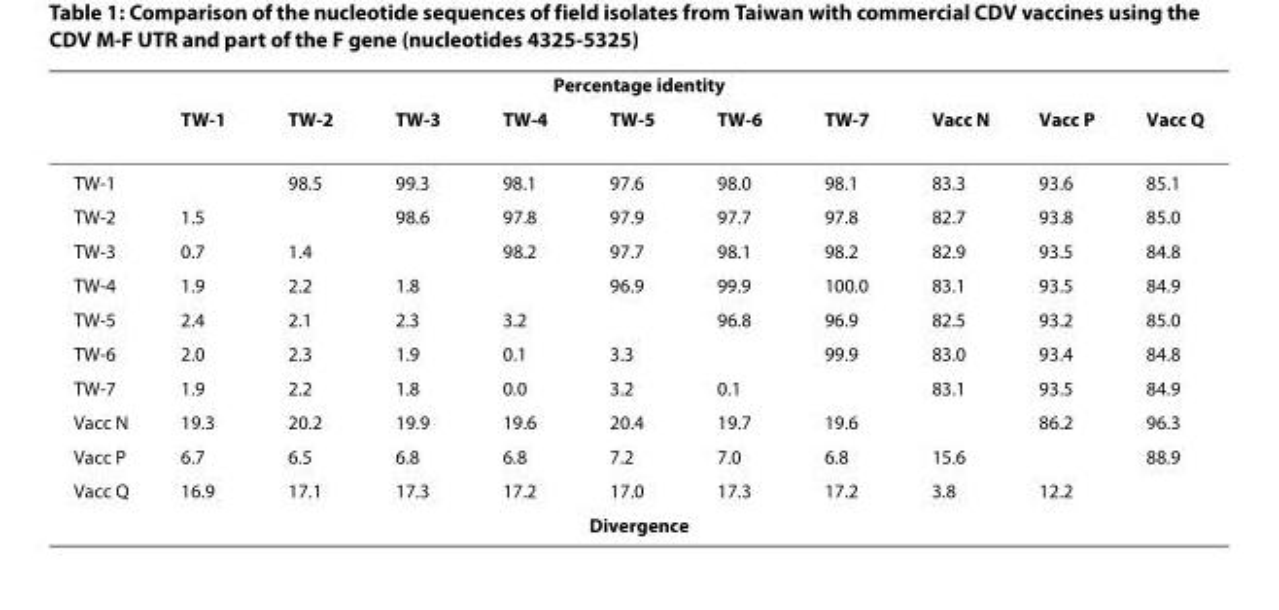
<table><thead><tr><td colspan="11">Percentage identity</td></tr><tr><td></td><td>TW-1</td><td>TW-2</td><td>TW-3</td><td>TW-4</td><td>TW-5</td><td>TW-6</td><td>TW-7</td><td>Vacc N</td><td>Vacc P</td><td>Vacc Q</td></tr></thead><tbody><tr><td>TW-1</td><td></td><td>98.5</td><td>99.3</td><td>98.1</td><td>97.6</td><td>98.0</td><td>98.1</td><td>83.3</td><td>93.6</td><td>85.1</td></tr><tr><td>TW-2</td><td>1.5</td><td></td><td>98.6</td><td>97.8</td><td>97.9</td><td>97.7</td><td>97.8</td><td>82.7</td><td>93.8</td><td>85.0</td></tr><tr><td>TW-3</td><td>0.7</td><td>1.4</td><td></td><td>98.2</td><td>97.7</td><td>98.1</td><td>98.2</td><td>82.9</td><td>93.5</td><td>84.8</td></tr><tr><td>TW-4</td><td>1.9</td><td>2.2</td><td>1.8</td><td></td><td>96.9</td><td>99.9</td><td>100.0</td><td>83.1</td><td>93.5</td><td>84.9</td></tr><tr><td>TW-5</td><td>2.4</td><td>2.1</td><td>2.3</td><td>3.2</td><td></td><td>96.8</td><td>96.9</td><td>82.5</td><td>93.2</td><td>85.0</td></tr><tr><td>TW-6</td><td>2.0</td><td>2.3</td><td>1.9</td><td>0.1</td><td>3.3</td><td></td><td>99.9</td><td>83.0</td><td>93.4</td><td>84.8</td></tr><tr><td>TW-7</td><td>1.9</td><td>2.2</td><td>1.8</td><td>0.0</td><td>3.2</td><td>0.1</td><td></td><td>83.1</td><td>93.5</td><td>84.9</td></tr><tr><td>Vacc N</td><td>19.3</td><td>20.2</td><td>19.9</td><td>19.6</td><td>20.4</td><td>19.7</td><td>19.6</td><td></td><td>86.2</td><td>96.3</td></tr><tr><td>Vacc P</td><td>6.7</td><td>6.5</td><td>6.8</td><td>6.8</td><td>7.2</td><td>7.0</td><td>6.8</td><td>15.6</td><td></td><td>88.9</td></tr><tr><td>Vacc Q</td><td>16.9</td><td>17.1</td><td>17.3</td><td>17.2</td><td>17.0</td><td>17.3</td><td>17.2</td><td>3.8</td><td>12.2</td><td></td></tr><tr><td colspan="11">Divergence</td></tr></tbody></table>